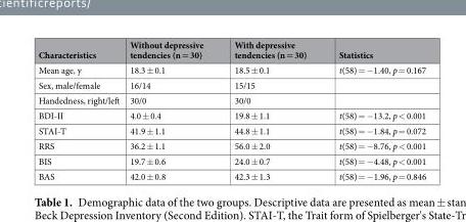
<table><thead><tr><td>Characteristics</td><td>Without depressive tendencies (n = 30)</td><td>With depressive tendencies (n = 30)</td><td>Statistics</td></tr></thead><tbody><tr><td>Mean age, y</td><td>18.3 ± 0.1</td><td>18.5 ± 0.1</td><td>t(58) = −1.40, p = 0.167</td></tr><tr><td>Sex, male/female</td><td>16/14</td><td>15/15</td><td></td></tr><tr><td>Handedness, right/left</td><td>30/0</td><td>30/0</td><td></td></tr><tr><td>BDI-II</td><td>4.0 ± 0.4</td><td>19.8 ± 1.1</td><td>t(58) = −13.2, p &lt; 0.001</td></tr><tr><td>STAI-T</td><td>41.9 ± 1.1</td><td>44.8 ± 1.1</td><td>t(58) = −1.84, p = 0.072</td></tr><tr><td>RRS</td><td>36.2 ± 1.1</td><td>56.0 ± 2.0</td><td>t(58) = −8.76, p &lt; 0.001</td></tr><tr><td>BIS</td><td>19.7 ± 0.6</td><td>24.0 ± 0.7</td><td>t(58) = −4.48, p &lt; 0.001</td></tr><tr><td>BAS</td><td>42.0 ± 0.8</td><td>42.3 ± 1.3</td><td>t(58) = −1.96, p = 0.846</td></tr></tbody></table>